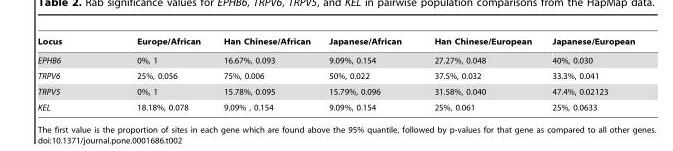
<table><thead><tr><td>Locus</td><td>Europe/African</td><td>Han Chinese/African</td><td>Japanese/African</td><td>Han Chinese/European</td><td>Japanese/European</td></tr></thead><tbody><tr><td>EPHB6</td><td>0%, 1</td><td>16.67%, 0.093</td><td>9.09%, 0.154</td><td>27.27%, 0.048</td><td>40%, 0.030</td></tr><tr><td>TRPV6</td><td>25%, 0.056</td><td>75%, 0.006</td><td>50%, 0.022</td><td>37.5%, 0.032</td><td>33.3%, 0.041</td></tr><tr><td>TRPV5</td><td>0%, 1</td><td>15.78%, 0.095</td><td>15.79%, 0.096</td><td>31.58%, 0.040</td><td>47.4%, 0.02123</td></tr><tr><td>KEL</td><td>18.18%, 0.078</td><td>9.09% , 0.154</td><td>9.09%, 0.154</td><td>25%, 0.061</td><td>25%, 0.0633</td></tr></tbody></table>